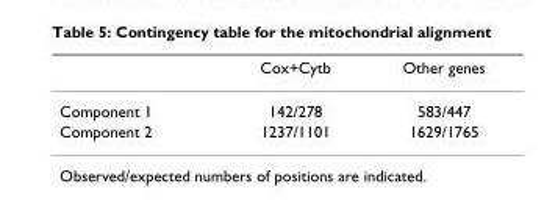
<table><thead><tr><td></td><td>Cox+Cytb</td><td>Other genes</td></tr></thead><tbody><tr><td>Component 1</td><td>142/278</td><td>583/447</td></tr><tr><td>Component 2</td><td>1237/1101</td><td>1629/1765</td></tr></tbody></table>